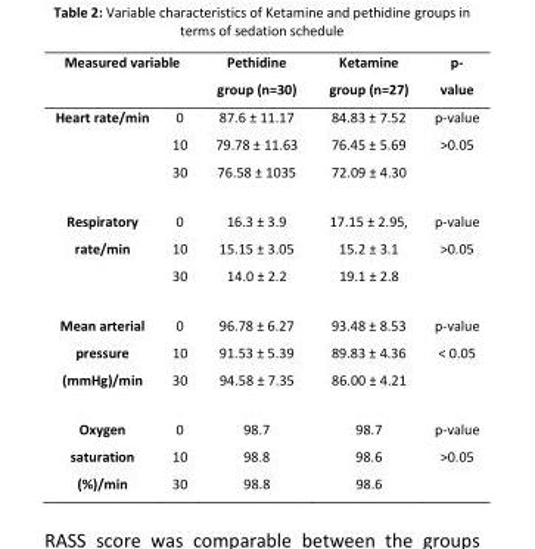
<table><thead><tr><td colspan="2">Measured variable</td><td rowspan="2">Pethidine group (n=30) 87.6 ± 11.17 79.78 ± 11.63 76.58 ± 1035</td><td rowspan="2">Ketamine group (n=27) 84.83 ± 7.52 76.45 ± 5.69 72.09 ± 4.30</td><td rowspan="2">p- value p-value &gt;0.05</td></tr><tr><td>Heart rate/min</td><td>0 10 30</td></tr></thead><tbody><tr><td>Respiratory rate/min</td><td>0 10 30</td><td>16.3 ± 3.9 15.15 ± 3.05 14.0 ± 2.2</td><td>17.15 ± 2.95, 15.2 ± 3.1 19.1 ± 2.8</td><td>p-value &gt;0.05</td></tr><tr><td>Mean arterial pressure (mmHg)/min</td><td>0 10 30</td><td>96.78 ± 6.27 91.53 ± 5.39 94.58 ± 7.35</td><td>93.48 ± 8.53 89.83 ± 4.36 86.00 ± 4.21</td><td>p-value &lt; 0.05</td></tr><tr><td>Oxygen saturation (%)/min</td><td>0 10 30</td><td>98.7 98.8 98.8</td><td>98.7 98.6 98.6</td><td>p-value &gt;0.05</td></tr></tbody></table>